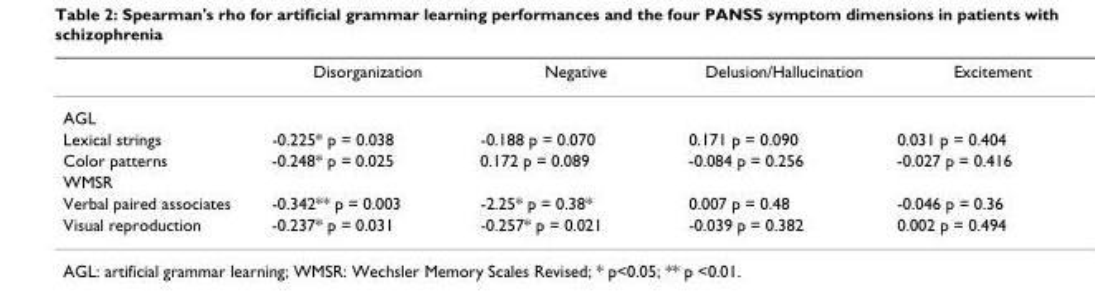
<table><thead><tr><td></td><td>Disorganization</td><td>Negative</td><td>Delusion/Hallucination</td><td>Excitement</td></tr></thead><tbody><tr><td colspan="5">AGL</td></tr><tr><td>Lexical strings</td><td>-0.225* p = 0.038</td><td>-0.188 p = 0.070</td><td>0.171 p = 0.090</td><td>0.031 p = 0.404</td></tr><tr><td>Color patterns</td><td>-0.248* p = 0.025</td><td>0.172 p = 0.089</td><td>-0.084 p = 0.256</td><td>-0.027 p = 0.416</td></tr><tr><td colspan="5">WMSR</td></tr><tr><td>Verbal paired associates</td><td>-0.342** p = 0.003</td><td>-2.25* p = 0.38*</td><td>0.007 p = 0.48</td><td>-0.046 p = 0.36</td></tr><tr><td>Visual reproduction</td><td>-0.237* p = 0.031</td><td>-0.257* p = 0.021</td><td>-0.039 p = 0.382</td><td>0.002 p = 0.494</td></tr></tbody></table>